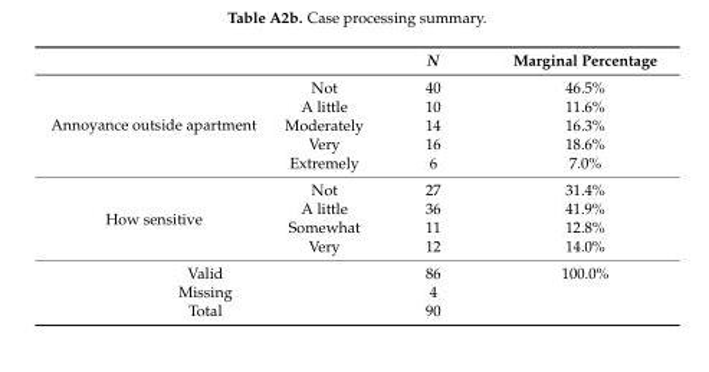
<table><thead><tr><td></td><td></td><td>N</td><td>Marginal Percentage</td></tr></thead><tbody><tr><td rowspan="5">Annoyance outside apartment</td><td>Not</td><td>40</td><td>46.5%</td></tr><tr><td>A little</td><td>10</td><td>11.6%</td></tr><tr><td>Moderately</td><td>14</td><td>16.3%</td></tr><tr><td>Very</td><td>16</td><td>18.6%</td></tr><tr><td>Extremely</td><td>6</td><td>7.0%</td></tr><tr><td rowspan="4">How sensitive</td><td>Not</td><td>27</td><td>31.4%</td></tr><tr><td>A little</td><td>36</td><td>41.9%</td></tr><tr><td>Somewhat</td><td>11</td><td>12.8%</td></tr><tr><td>Very</td><td>12</td><td>14.0%</td></tr><tr><td colspan="2">Valid</td><td>86</td><td>100.0%</td></tr><tr><td colspan="2">Missing</td><td>4</td><td></td></tr><tr><td colspan="2">Total</td><td>90</td><td></td></tr></tbody></table>